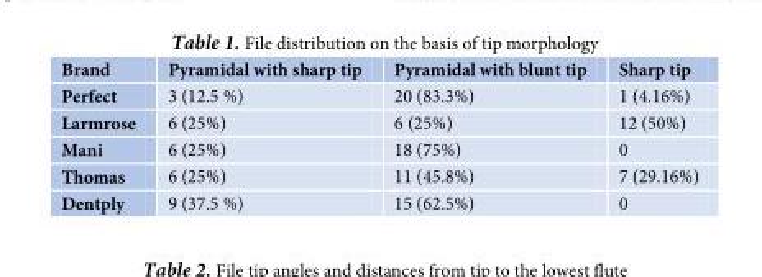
<table><thead><tr><td>Brand</td><td>Pyramidal with sharp tip</td><td>Pyramidal with blunt tip</td><td>Sharp tip</td></tr></thead><tbody><tr><td>Perfect</td><td>3 (12.5 %)</td><td>20 (83.3%)</td><td>1 (4.16%)</td></tr><tr><td>Larmrose</td><td>6 (25%)</td><td>6 (25%)</td><td>12 (50%)</td></tr><tr><td>Mani</td><td>6 (25%)</td><td>18 (75%)</td><td>0</td></tr><tr><td>Thomas</td><td>6 (25%)</td><td>11 (45.8%)</td><td>7 (29.16%)</td></tr><tr><td>Dentply</td><td>9 (37.5 %)</td><td>15 (62.5%)</td><td>0</td></tr></tbody></table>